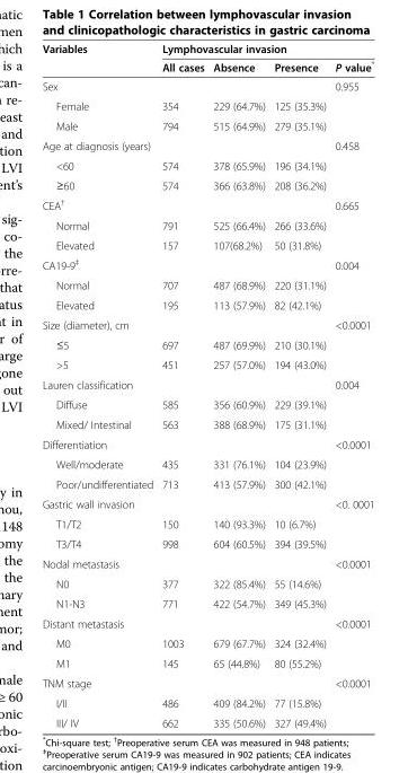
<table><thead><tr><td rowspan="2">Variables</td><td colspan="4">Lymphovascular invasion</td></tr><tr><td>All cases</td><td>Absence</td><td>Presence</td><td>P value*</td></tr></thead><tbody><tr><td>Sex</td><td></td><td></td><td></td><td>0.955</td></tr><tr><td>Female</td><td>354</td><td>229 (64.7%)</td><td>125 (35.3%)</td><td></td></tr><tr><td>Male</td><td>794</td><td>515 (64.9%)</td><td>279 (35.1%)</td><td></td></tr><tr><td>Age at diagnosis (years)</td><td></td><td></td><td></td><td>0.458</td></tr><tr><td>&lt;60</td><td>574</td><td>378 (65.9%)</td><td>196 (34.1%)</td><td></td></tr><tr><td>≥60</td><td>574</td><td>366 (63.8%)</td><td>208 (36.2%)</td><td></td></tr><tr><td>CEA<sup>†</sup></td><td></td><td></td><td></td><td>0.665</td></tr><tr><td>Normal</td><td>791</td><td>525 (66.4%)</td><td>266 (33.6%)</td><td></td></tr><tr><td>Elevated</td><td>157</td><td>107(68.2%)</td><td>50 (31.8%)</td><td></td></tr><tr><td>CA19-9<sup>‡</sup></td><td></td><td></td><td></td><td>0.004</td></tr><tr><td>Normal</td><td>707</td><td>487 (68.9%)</td><td>220 (31.1%)</td><td></td></tr><tr><td>Elevated</td><td>195</td><td>113 (57.9%)</td><td>82 (42.1%)</td><td></td></tr><tr><td>Size (diameter), cm</td><td></td><td></td><td></td><td>&lt;0.0001</td></tr><tr><td>≤5</td><td>697</td><td>487 (69.9%)</td><td>210 (30.1%)</td><td></td></tr><tr><td>&gt;5</td><td>451</td><td>257 (57.0%)</td><td>194 (43.0%)</td><td></td></tr><tr><td>Lauren classification</td><td></td><td></td><td></td><td>0.004</td></tr><tr><td>Diffuse</td><td>585</td><td>356 (60.9%)</td><td>229 (39.1%)</td><td></td></tr><tr><td>Mixed/ Intestinal</td><td>563</td><td>388 (68.9%)</td><td>175 (31.1%)</td><td></td></tr><tr><td>Differentiation</td><td></td><td></td><td></td><td>&lt;0.0001</td></tr><tr><td>Well/moderate</td><td>435</td><td>331 (76.1%)</td><td>104 (23.9%)</td><td></td></tr><tr><td>Poor/undifferentiated</td><td>713</td><td>413 (57.9%)</td><td>300 (42.1%)</td><td></td></tr><tr><td>Gastric wall invasion</td><td></td><td></td><td></td><td>&lt;0. 0001</td></tr><tr><td>T1/T2</td><td>150</td><td>140 (93.3%)</td><td>10 (6.7%)</td><td></td></tr><tr><td>T3/T4</td><td>998</td><td>604 (60.5%)</td><td>394 (39.5%)</td><td></td></tr><tr><td>Nodal metastasis</td><td></td><td></td><td></td><td>&lt;0.0001</td></tr><tr><td>N0</td><td>377</td><td>322 (85.4%)</td><td>55 (14.6%)</td><td></td></tr><tr><td>N1-N3</td><td>771</td><td>422 (54.7%)</td><td>349 (45.3%)</td><td></td></tr><tr><td>Distant metastasis</td><td></td><td></td><td></td><td>&lt;0.0001</td></tr><tr><td>M0</td><td>1003</td><td>679 (67.7%)</td><td>324 (32.4%)</td><td></td></tr><tr><td>M1</td><td>145</td><td>65 (44.8%)</td><td>80 (55.2%)</td><td></td></tr><tr><td>TNM stage</td><td></td><td></td><td></td><td>&lt;0.0001</td></tr><tr><td>I/II</td><td>486</td><td>409 (84.2%)</td><td>77 (15.8%)</td><td></td></tr><tr><td>III/ IV</td><td>662</td><td>335 (50.6%)</td><td>327 (49.4%)</td><td></td></tr></tbody></table>